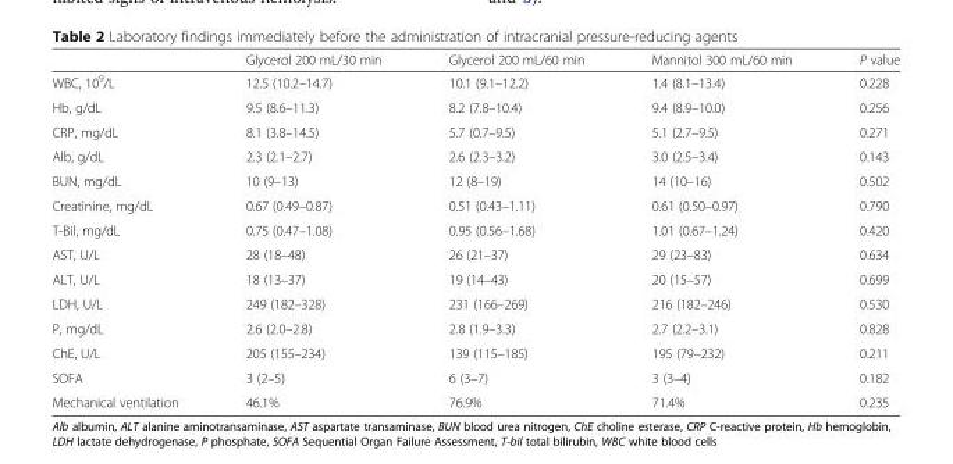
<table><thead><tr><td></td><td>Glycerol 200 mL/30 min</td><td>Glycerol 200 mL/60 min</td><td>Mannitol 300 mL/60 min</td><td>P value</td></tr></thead><tbody><tr><td>WBC, 10<sup>9</sup>/L</td><td>12.5 (10.2–14.7)</td><td>10.1 (9.1–12.2)</td><td>1.4 (8.1–13.4)</td><td>0.228</td></tr><tr><td>Hb, g/dL</td><td>9.5 (8.6–11.3)</td><td>8.2 (7.8–10.4)</td><td>9.4 (8.9–10.0)</td><td>0.256</td></tr><tr><td>CRP, mg/dL</td><td>8.1 (3.8–14.5)</td><td>5.7 (0.7–9.5)</td><td>5.1 (2.7–9.5)</td><td>0.271</td></tr><tr><td>Alb, g/dL</td><td>2.3 (2.1–2.7)</td><td>2.6 (2.3–3.2)</td><td>3.0 (2.5–3.4)</td><td>0.143</td></tr><tr><td>BUN, mg/dL</td><td>10 (9–13)</td><td>12 (8–19)</td><td>14 (10–16)</td><td>0.502</td></tr><tr><td>Creatinine, mg/dL</td><td>0.67 (0.49–0.87)</td><td>0.51 (0.43–1.11)</td><td>0.61 (0.50–0.97)</td><td>0.790</td></tr><tr><td>T-Bil, mg/dL</td><td>0.75 (0.47–1.08)</td><td>0.95 (0.56–1.68)</td><td>1.01 (0.67–1.24)</td><td>0.420</td></tr><tr><td>AST, U/L</td><td>28 (18–48)</td><td>26 (21–37)</td><td>29 (23–83)</td><td>0.634</td></tr><tr><td>ALT, U/L</td><td>18 (13–37)</td><td>19 (14–43)</td><td>20 (15–57)</td><td>0.699</td></tr><tr><td>LDH, U/L</td><td>249 (182–328)</td><td>231 (166–269)</td><td>216 (182–246)</td><td>0.530</td></tr><tr><td>P, mg/dL</td><td>2.6 (2.0–2.8)</td><td>2.8 (1.9–3.3)</td><td>2.7 (2.2–3.1)</td><td>0.828</td></tr><tr><td>ChE, U/L</td><td>205 (155–234)</td><td>139 (115–185)</td><td>195 (79–232)</td><td>0.211</td></tr><tr><td>SOFA</td><td>3 (2–5)</td><td>6 (3–7)</td><td>3 (3–4)</td><td>0.182</td></tr><tr><td>Mechanical ventilation</td><td>46.1%</td><td>76.9%</td><td>71.4%</td><td>0.235</td></tr></tbody></table>